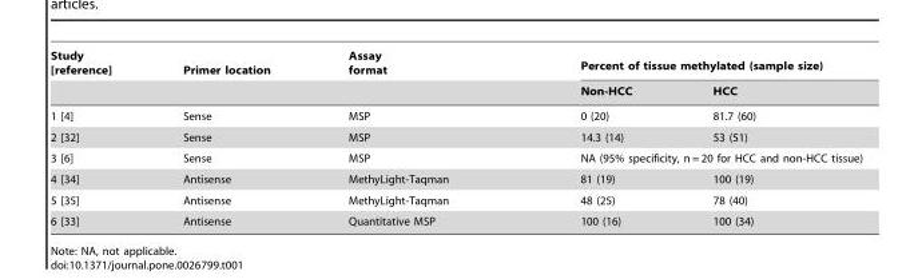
<table><thead><tr><td rowspan="2">Study [reference]</td><td rowspan="2">Primer location</td><td rowspan="2">Assay format</td><td colspan="2">Percent of tissue methylated (sample size)</td></tr><tr><td>Non-HCC</td><td>HCC</td></tr></thead><tbody><tr><td>1 [4]</td><td>Sense</td><td>MSP</td><td>0 (20)</td><td>81.7 (60)</td></tr><tr><td>2 [32]</td><td>Sense</td><td>MSP</td><td>14.3 (14)</td><td>53 (51)</td></tr><tr><td>3 [6]</td><td>Sense</td><td>MSP</td><td colspan="2">NA (95% specificity, n = 20 for HCC and non-HCC tissue)</td></tr><tr><td>4 [34]</td><td>Antisense</td><td>MethyLight-Taqman</td><td>81 (19)</td><td>100 (19)</td></tr><tr><td>5 [35]</td><td>Antisense</td><td>MethyLight-Taqman</td><td>48 (25)</td><td>78 (40)</td></tr><tr><td>6 [33]</td><td>Antisense</td><td>Quantitative MSP</td><td>100 (16)</td><td>100 (34)</td></tr></tbody></table>